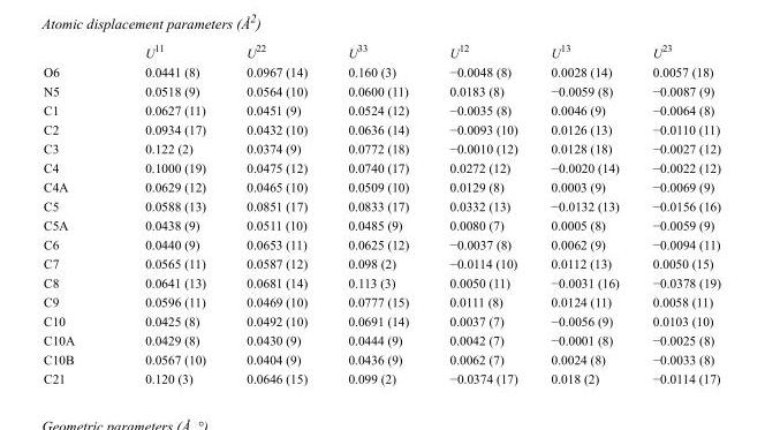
<table><thead><tr><td></td><td>U<sup>11</sup></td><td>U<sup>22</sup></td><td>U<sup>33</sup></td><td>U<sup>12</sup></td><td>U<sup>13</sup></td><td>U<sup>23</sup></td></tr></thead><tbody><tr><td>O6</td><td>0.0441 (8)</td><td>0.0967 (14)</td><td>0.160 (3)</td><td>−0.0048 (8)</td><td>0.0028 (14)</td><td>0.0057 (18)</td></tr><tr><td>N5</td><td>0.0518 (9)</td><td>0.0564 (10)</td><td>0.0600 (11)</td><td>0.0183 (8)</td><td>−0.0059 (8)</td><td>−0.0087 (9)</td></tr><tr><td>C1</td><td>0.0627 (11)</td><td>0.0451 (9)</td><td>0.0524 (12)</td><td>−0.0035 (8)</td><td>0.0046 (9)</td><td>−0.0064 (8)</td></tr><tr><td>C2</td><td>0.0934 (17)</td><td>0.0432 (10)</td><td>0.0636 (14)</td><td>−0.0093 (10)</td><td>0.0126 (13)</td><td>−0.0110 (11)</td></tr><tr><td>C3</td><td>0.122 (2)</td><td>0.0374 (9)</td><td>0.0772 (18)</td><td>−0.0010 (12)</td><td>0.0128 (18)</td><td>−0.0027 (12)</td></tr><tr><td>C4</td><td>0.1000 (19)</td><td>0.0475 (12)</td><td>0.0740 (17)</td><td>0.0272 (12)</td><td>−0.0020 (14)</td><td>−0.0022 (12)</td></tr><tr><td>C4A</td><td>0.0629 (12)</td><td>0.0465 (10)</td><td>0.0509 (10)</td><td>0.0129 (8)</td><td>0.0003 (9)</td><td>−0.0069 (9)</td></tr><tr><td>C5</td><td>0.0588 (13)</td><td>0.0851 (17)</td><td>0.0833 (17)</td><td>0.0332 (13)</td><td>−0.0132 (13)</td><td>−0.0156 (16)</td></tr><tr><td>C5A</td><td>0.0438 (9)</td><td>0.0511 (10)</td><td>0.0485 (9)</td><td>0.0080 (7)</td><td>0.0005 (8)</td><td>−0.0059 (9)</td></tr><tr><td>C6</td><td>0.0440 (9)</td><td>0.0653 (11)</td><td>0.0625 (12)</td><td>−0.0037 (8)</td><td>0.0062 (9)</td><td>−0.0094 (11)</td></tr><tr><td>C7</td><td>0.0565 (11)</td><td>0.0587 (12)</td><td>0.098 (2)</td><td>−0.0114 (10)</td><td>0.0112 (13)</td><td>0.0050 (15)</td></tr><tr><td>C8</td><td>0.0641 (13)</td><td>0.0681 (14)</td><td>0.113 (3)</td><td>0.0050 (11)</td><td>−0.0031 (16)</td><td>−0.0378 (19)</td></tr><tr><td>C9</td><td>0.0596 (11)</td><td>0.0469 (10)</td><td>0.0777 (15)</td><td>0.0111 (8)</td><td>0.0124 (11)</td><td>0.0058 (11)</td></tr><tr><td>C10</td><td>0.0425 (8)</td><td>0.0492 (10)</td><td>0.0691 (14)</td><td>0.0037 (7)</td><td>−0.0056 (9)</td><td>0.0103 (10)</td></tr><tr><td>C10A</td><td>0.0429 (8)</td><td>0.0430 (9)</td><td>0.0444 (9)</td><td>0.0042 (7)</td><td>−0.0001 (8)</td><td>−0.0025 (8)</td></tr><tr><td>C10B</td><td>0.0567 (10)</td><td>0.0404 (9)</td><td>0.0436 (9)</td><td>0.0062 (7)</td><td>0.0024 (8)</td><td>−0.0033 (8)</td></tr><tr><td>C21</td><td>0.120 (3)</td><td>0.0646 (15)</td><td>0.099 (2)</td><td>−0.0374 (17)</td><td>0.018 (2)</td><td>−0.0114 (17)</td></tr></tbody></table>